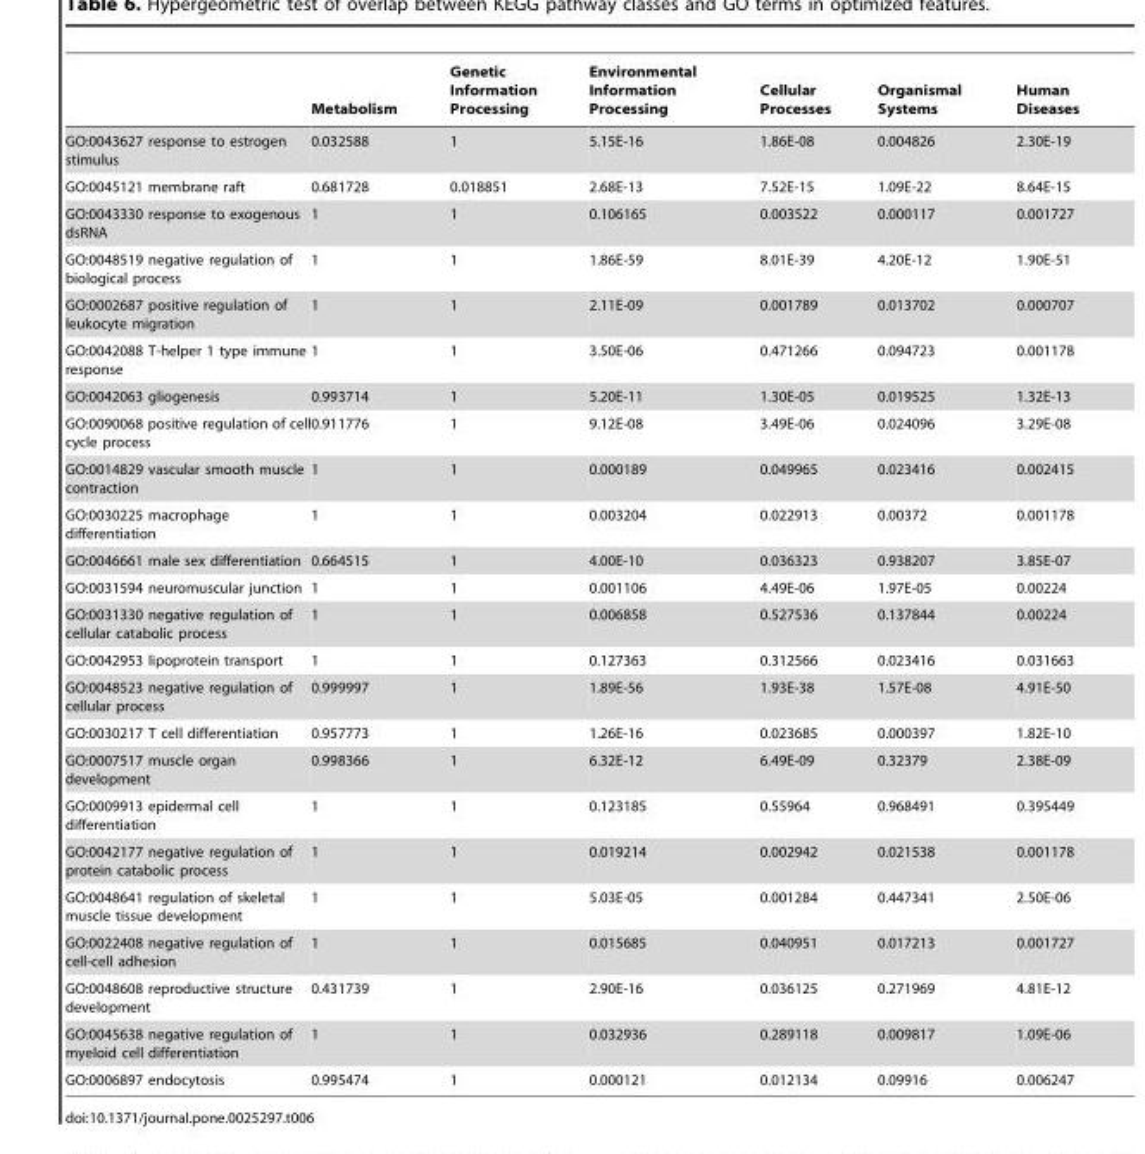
<table><thead><tr><td></td><td>Metabolism</td><td>Genetic Information Processing</td><td>Environmental Information Processing</td><td>Cellular Processes</td><td>Organismal Systems</td><td>Human Diseases</td></tr></thead><tbody><tr><td>GO:0043627 response to estrogen stimulus</td><td>0.032588</td><td>1</td><td>5.15E-16</td><td>1.86E-08</td><td>0.004826</td><td>2.30E-19</td></tr><tr><td>GO:0045121 membrane raft</td><td>0.681728</td><td>0.018851</td><td>2.68E-13</td><td>7.52E-15</td><td>1.09E-22</td><td>8.64E-15</td></tr><tr><td>GO:0043330 response to exogenous dsRNA</td><td>1</td><td>1</td><td>0.106165</td><td>0.003522</td><td>0.000117</td><td>0.001727</td></tr><tr><td>GO:0048519 negative regulation of biological process</td><td>1</td><td>1</td><td>1.86E-59</td><td>8.01E-39</td><td>4.20E-12</td><td>1.90E-51</td></tr><tr><td>GO:0002687 positive regulation of leukocyte migration</td><td>1</td><td>1</td><td>2.11E-09</td><td>0.001789</td><td>0.013702</td><td>0.000707</td></tr><tr><td>GO:0042088 T-helper 1 type immune response</td><td>1</td><td>1</td><td>3.50E-06</td><td>0.471266</td><td>0.094723</td><td>0.001178</td></tr><tr><td>GO:0042063 gliogenesis</td><td>0.993714</td><td>1</td><td>5.20E-11</td><td>1.30E-05</td><td>0.019525</td><td>1.32E-13</td></tr><tr><td>GO:0090068 positive regulation of cell cycle process</td><td>0.911776</td><td>1</td><td>9.12E-08</td><td>3.49E-06</td><td>0.024096</td><td>3.29E-08</td></tr><tr><td>GO:0014829 vascular smooth muscle contraction</td><td>1</td><td>1</td><td>0.000189</td><td>0.049965</td><td>0.023416</td><td>0.002415</td></tr><tr><td>GO:0030225 macrophage differentiation</td><td>1</td><td>1</td><td>0.003204</td><td>0.022913</td><td>0.00372</td><td>0.001178</td></tr><tr><td>GO:0046661 male sex differentiation</td><td>0.664515</td><td>1</td><td>4.00E-10</td><td>0.036323</td><td>0.938207</td><td>3.85E-07</td></tr><tr><td>GO:0031594 neuromuscular junction</td><td>1</td><td>1</td><td>0.001106</td><td>4.49E-06</td><td>1.97E-05</td><td>0.00224</td></tr><tr><td>GO:0031330 negative regulation of cellular catabolic process</td><td>1</td><td>1</td><td>0.006858</td><td>0.527536</td><td>0.137844</td><td>0.00224</td></tr><tr><td>GO:0042953 lipoprotein transport</td><td>1</td><td>1</td><td>0.127363</td><td>0.312566</td><td>0.023416</td><td>0.031663</td></tr><tr><td>GO:0048523 negative regulation of cellular process</td><td>0.999997</td><td>1</td><td>1.89E-56</td><td>1.93E-38</td><td>1.57E-08</td><td>4.91E-50</td></tr><tr><td>GO:0030217 T cell differentiation</td><td>0.957773</td><td>1</td><td>1.26E-16</td><td>0.023685</td><td>0.000397</td><td>1.82E-10</td></tr><tr><td>GO:0007517 muscle organ development</td><td>0.998366</td><td>1</td><td>6.32E-12</td><td>6.49E-09</td><td>0.32379</td><td>2.38E-09</td></tr><tr><td>GO:0009913 epidermal cell differentiation</td><td>1</td><td>1</td><td>0.123185</td><td>0.55964</td><td>0.968491</td><td>0.395449</td></tr><tr><td>GO:0042177 negative regulation of protein catabolic process</td><td>1</td><td>1</td><td>0.019214</td><td>0.002942</td><td>0.021538</td><td>0.001178</td></tr><tr><td>GO:0048641 regulation of skeletal muscle tissue development</td><td>1</td><td>1</td><td>5.03E-05</td><td>0.001284</td><td>0.447341</td><td>2.50E-06</td></tr><tr><td>GO:0022408 negative regulation of cell-cell adhesion</td><td>1</td><td>1</td><td>0.015685</td><td>0.040951</td><td>0.017213</td><td>0.001727</td></tr><tr><td>GO:0048608 reproductive structure development</td><td>0.431739</td><td>1</td><td>2.90E-16</td><td>0.036125</td><td>0.271969</td><td>4.81E-12</td></tr><tr><td>GO:0045638 negative regulation of myeloid cell differentiation</td><td>1</td><td>1</td><td>0.032936</td><td>0.289118</td><td>0.009817</td><td>1.09E-06</td></tr><tr><td>GO:0006897 endocytosis</td><td>0.995474</td><td>1</td><td>0.000121</td><td>0.012134</td><td>0.09916</td><td>0.006247</td></tr></tbody></table>